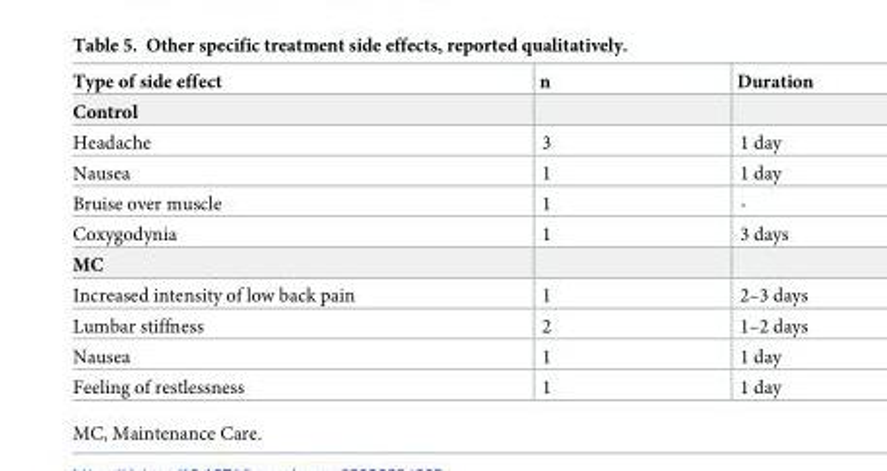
<table><thead><tr><td>Type of side effect</td><td>n</td><td>Duration</td></tr></thead><tbody><tr><td colspan="3">Control</td></tr><tr><td>Headache</td><td>3</td><td>1 day</td></tr><tr><td>Nausea</td><td>1</td><td>1 day</td></tr><tr><td>Bruise over muscle</td><td>1</td><td>-</td></tr><tr><td>Coxygodynia</td><td>1</td><td>3 days</td></tr><tr><td colspan="3">MC</td></tr><tr><td>Increased intensity of low back pain</td><td>1</td><td>2–3 days</td></tr><tr><td>Lumbar stiffness</td><td>2</td><td>1–2 days</td></tr><tr><td>Nausea</td><td>1</td><td>1 day</td></tr><tr><td>Feeling of restlessness</td><td>1</td><td>1 day</td></tr></tbody></table>